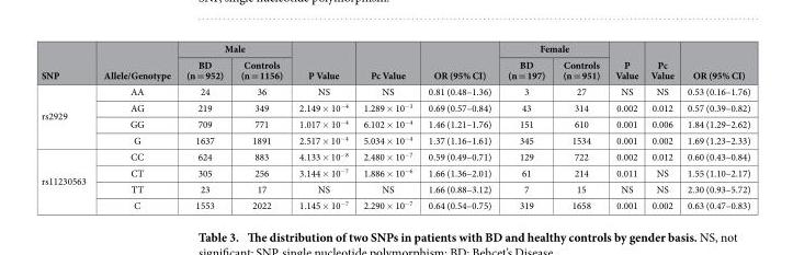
<table><thead><tr><td rowspan="2">SNP</td><td rowspan="2">Allele/Genotype</td><td colspan="2">Male</td><td rowspan="2">P Value</td><td rowspan="2">Pc Value</td><td rowspan="2">OR (95% CI)</td><td colspan="2">Female</td><td rowspan="2">P Value</td><td rowspan="2">Pc Value</td><td rowspan="2">OR (95% CI)</td></tr><tr><td>BD (n = 952)</td><td>Controls (n = 1156)</td><td>BD (n = 197)</td><td>Controls (n = 951)</td></tr></thead><tbody><tr><td rowspan="4">rs2929</td><td>AA</td><td>24</td><td>36</td><td>NS</td><td>NS</td><td>0.81 (0.48–1.36)</td><td>3</td><td>27</td><td>NS</td><td>NS</td><td>0.53 (0.16–1.76)</td></tr><tr><td>AG</td><td>219</td><td>349</td><td>2.149 × 10<sup>−4</sup></td><td>1.289 × 10<sup>−3</sup></td><td>0.69 (0.57–0.84)</td><td>43</td><td>314</td><td>0.002</td><td>0.012</td><td>0.57 (0.39–0.82)</td></tr><tr><td>GG</td><td>709</td><td>771</td><td>1.017 × 10<sup>−4</sup></td><td>6.102 × 10<sup>−4</sup></td><td>1.46 (1.21–1.76)</td><td>151</td><td>610</td><td>0.001</td><td>0.006</td><td>1.84 (1.29–2.62)</td></tr><tr><td>G</td><td>1637</td><td>1891</td><td>2.517 × 10<sup>−4</sup></td><td>5.034 × 10<sup>−4</sup></td><td>1.37 (1.16–1.61)</td><td>345</td><td>1534</td><td>0.001</td><td>0.002</td><td>1.69 (1.23–2.33)</td></tr><tr><td rowspan="4">rs11230563</td><td>CC</td><td>624</td><td>883</td><td>4.133 × 10<sup>−8</sup></td><td>2.480 × 10<sup>−7</sup></td><td>0.59 (0.49–0.71)</td><td>129</td><td>722</td><td>0.002</td><td>0.012</td><td>0.60 (0.43–0.84)</td></tr><tr><td>CT</td><td>305</td><td>256</td><td>3.144 × 10<sup>−7</sup></td><td>1.886 × 10<sup>−6</sup></td><td>1.66 (1.36–2.01)</td><td>61</td><td>214</td><td>0.011</td><td>NS</td><td>1.55 (1.10–2.17)</td></tr><tr><td>TT</td><td>23</td><td>17</td><td>NS</td><td>NS</td><td>1.66 (0.88–3.12)</td><td>7</td><td>15</td><td>NS</td><td>NS</td><td>2.30 (0.93–5.72)</td></tr><tr><td>C</td><td>1553</td><td>2022</td><td>1.145 × 10<sup>−7</sup></td><td>2.290 × 10<sup>−7</sup></td><td>0.64 (0.54–0.75)</td><td>319</td><td>1658</td><td>0.001</td><td>0.002</td><td>0.63 (0.47–0.83)</td></tr></tbody></table>